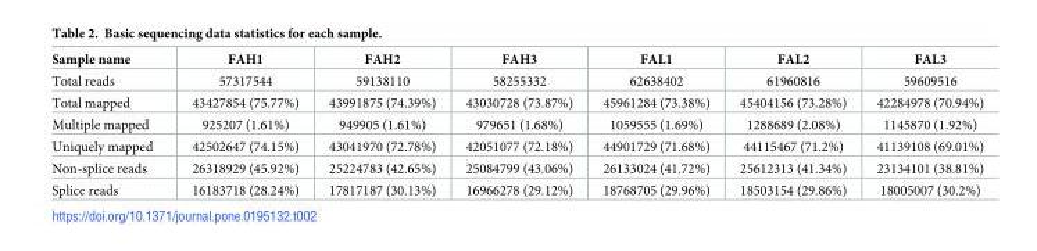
<table><thead><tr><td>Sample name</td><td>FAH1</td><td>FAH2</td><td>FAH3</td><td>FAL1</td><td>FAL2</td><td>FAL3</td></tr></thead><tbody><tr><td>Total reads</td><td>57317544</td><td>59138110</td><td>58255332</td><td>62638402</td><td>61960816</td><td>59609516</td></tr><tr><td>Total mapped</td><td>43427854 (75.77%)</td><td>43991875 (74.39%)</td><td>43030728 (73.87%)</td><td>45961284 (73.38%)</td><td>45404156 (73.28%)</td><td>42284978 (70.94%)</td></tr><tr><td>Multiple mapped</td><td>925207 (1.61%)</td><td>949905 (1.61%)</td><td>979651 (1.68%)</td><td>1059555 (1.69%)</td><td>1288689 (2.08%)</td><td>1145870 (1.92%)</td></tr><tr><td>Uniquely mapped</td><td>42502647 (74.15%)</td><td>43041970 (72.78%)</td><td>42051077 (72.18%)</td><td>44901729 (71.68%)</td><td>44115467 (71.2%)</td><td>41139108 (69.01%)</td></tr><tr><td>Non-splice reads</td><td>26318929 (45.92%)</td><td>25224783 (42.65%)</td><td>25084799 (43.06%)</td><td>26133024 (41.72%)</td><td>25612313 (41.34%)</td><td>23134101 (38.81%)</td></tr><tr><td>Splice reads</td><td>16183718 (28.24%)</td><td>17817187 (30.13%)</td><td>16966278 (29.12%)</td><td>18768705 (29.96%)</td><td>18503154 (29.86%)</td><td>18005007 (30.2%)</td></tr></tbody></table>